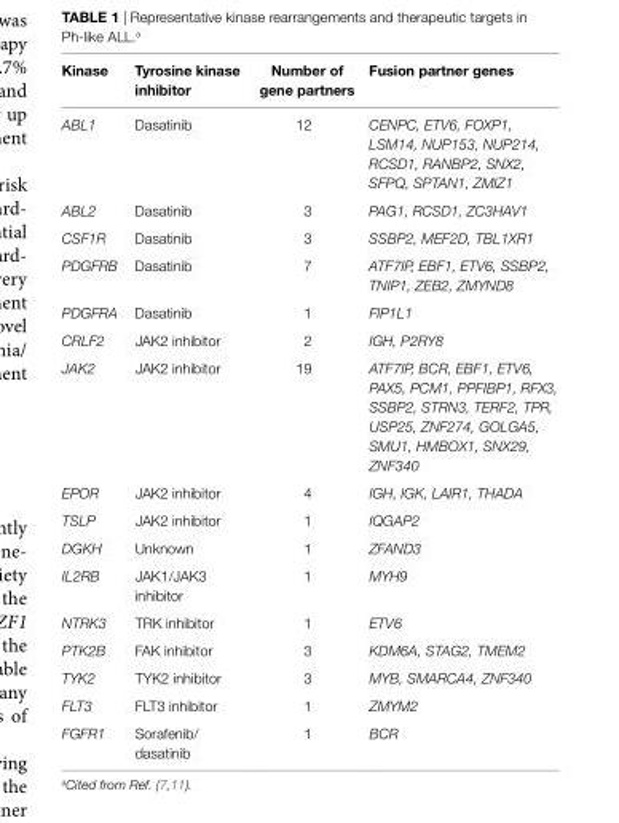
<table><thead><tr><td>Kinase</td><td>tyrosine kinase inhibitor</td><td>Number of gene partners</td><td>Fusion partner genes</td></tr></thead><tbody><tr><td>ABL1</td><td>Dasatinib</td><td>12</td><td>CENPC, ETV6, FOXP1, LSM14, NUP153, NUP214, RCSD1, RANBP2, SNX2, SFPQ, SPTAN1, ZMIZ1</td></tr><tr><td>ABL2</td><td>Dasatinib</td><td>3</td><td>PAG1, RCSD1, ZC3HAV1</td></tr><tr><td>CSF1R</td><td>Dasatinib</td><td>3</td><td>SSBP2, MEF2D, TBL1XR1</td></tr><tr><td>PDGFRB</td><td>Dasatinib</td><td>7</td><td>ATF7IP, EBF1, ETV6, SSBP2, TNIP1, ZEB2, ZMYND8</td></tr><tr><td>PDGFRA</td><td>Dasatinib</td><td>1</td><td>FIP1L1</td></tr><tr><td>CRLF2</td><td>JAK2 inhibitor</td><td>2</td><td>IGH, P2RY8</td></tr><tr><td>JAK2</td><td>JAK2 inhibitor</td><td>19</td><td>ATF7IP, BCR, EBF1, ETV6, PAX5, PCM1, PPFIBP1, RFX3, SSBP2, STRN3, TERF2, TPR, USP25, ZNF274, GOLGA5, SMU1, HMBOX1, SNX29, ZNF340</td></tr><tr><td>EPOR</td><td>JAK2 inhibitor</td><td>4</td><td>IGH, IGK, LAIR1, THADA</td></tr><tr><td>TSLP</td><td>JAK2 inhibitor</td><td>1</td><td>IQGAP2</td></tr><tr><td>DGKH</td><td>Unknown</td><td>1</td><td>ZFAND3</td></tr><tr><td>IL2RB</td><td>JAK1/JAK3 inhibitor</td><td>1</td><td>MYH9</td></tr><tr><td>NTRK3</td><td>TRK inhibitor</td><td>1</td><td>ETV6</td></tr><tr><td>PTK2B</td><td>FAK inhibitor</td><td>3</td><td>KDM6A, STAG2, TMEM2</td></tr><tr><td>TYK2</td><td>TYK2 inhibitor</td><td>3</td><td>MYB, SMARCA4, ZNF340</td></tr><tr><td>FLT3</td><td>FLT3 inhibitor</td><td>1</td><td>ZMYM2</td></tr><tr><td>FGFR1</td><td>Sorafenib/ dasatinib</td><td>1</td><td>BCR</td></tr></tbody></table>